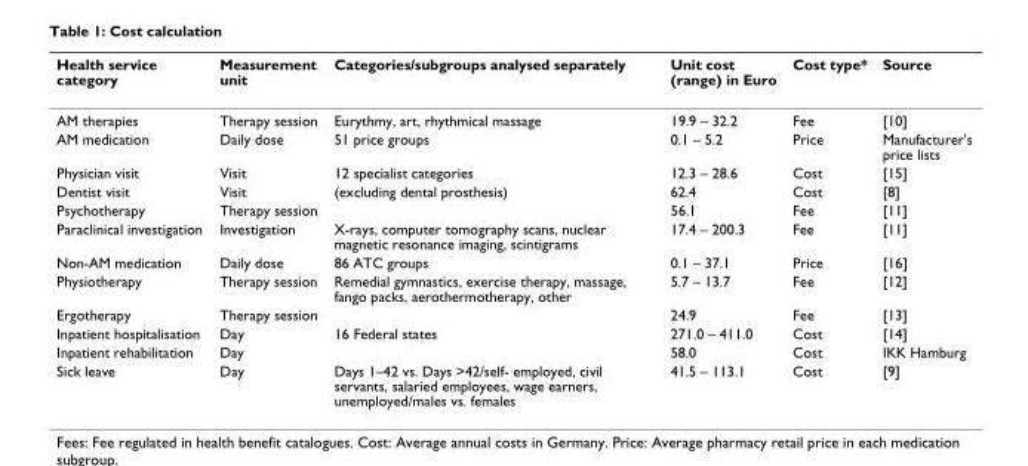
<table><thead><tr><td>Health service category</td><td>Measurement unit</td><td>Categories/subgroups analysed separately</td><td>Unit cost (range) in Euro</td><td>Cost type*</td><td>Source</td></tr></thead><tbody><tr><td>AM therapies</td><td>Therapy session</td><td>Eurythmy, art, rhythmical massage</td><td>19.9 – 32.2</td><td>Fee</td><td>[10]</td></tr><tr><td>AM medication</td><td>Daily dose</td><td>51 price groups</td><td>0.1 – 5.2</td><td>Price</td><td>Manufacturer&#x27;s price lists</td></tr><tr><td>Physician visit</td><td>Visit</td><td>12 specialist categories</td><td>12.3 – 28.6</td><td>Cost</td><td>[15]</td></tr><tr><td>Dentist visit</td><td>Visit</td><td>(excluding dental prosthesis)</td><td>62.4</td><td>Cost</td><td>[8]</td></tr><tr><td>Psychotherapy</td><td>Therapy session</td><td></td><td>56.1</td><td>Fee</td><td>[11]</td></tr><tr><td>Paraclinical investigation</td><td>Investigation</td><td>X-rays, computer tomography scans, nuclear magnetic resonance imaging, scintigrams</td><td>17.4 – 200.3</td><td>Fee</td><td>[11]</td></tr><tr><td>Non-AM medication</td><td>Daily dose</td><td>86 ATC groups</td><td>0.1 – 37.1</td><td>Price</td><td>[16]</td></tr><tr><td>Physiotherapy</td><td>Therapy session</td><td>Remedial gymnastics, exercise therapy, massage, fango packs, aerothermotherapy, other</td><td>5.7 – 13.7</td><td>Fee</td><td>[12]</td></tr><tr><td>Ergotherapy</td><td>Therapy session</td><td></td><td>24.9</td><td>Fee</td><td>[13]</td></tr><tr><td>Inpatient hospitalisation</td><td>Day</td><td>16 Federal states</td><td>271.0 – 411.0</td><td>Cost</td><td>[14]</td></tr><tr><td>Inpatient rehabilitation</td><td>Day</td><td></td><td>58.0</td><td>Cost</td><td>IKK Hamburg</td></tr><tr><td>Sick leave</td><td>Day</td><td>Days 1–42 vs. Days &gt;42/self- employed, civil servants, salaried employees, wage earners, unemployed/males vs. females</td><td>41.5 – 113.1</td><td>Cost</td><td>[9]</td></tr></tbody></table>